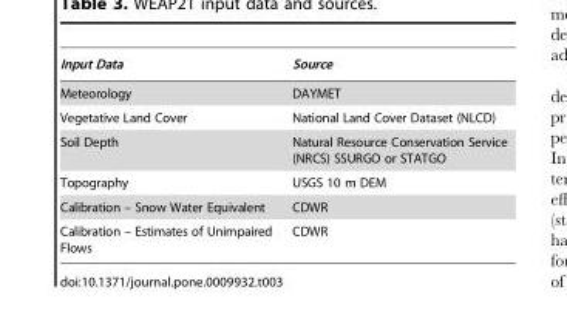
<table><thead><tr><td>Input Data</td><td>Source</td></tr></thead><tbody><tr><td>Meteorology</td><td>DAYMET</td></tr><tr><td>Vegetative Land Cover</td><td>National Land Cover Dataset (NLCD)</td></tr><tr><td>Soil Depth</td><td>Natural Resource Conservation Service (NRCS) SSURGO or STATGO</td></tr><tr><td>Topography</td><td>USGS 10 m DEM</td></tr><tr><td>Calibration – Snow Water Equivalent</td><td>CDWR</td></tr><tr><td>Calibration – Estimates of Unimpaired Flows</td><td>CDWR</td></tr></tbody></table>